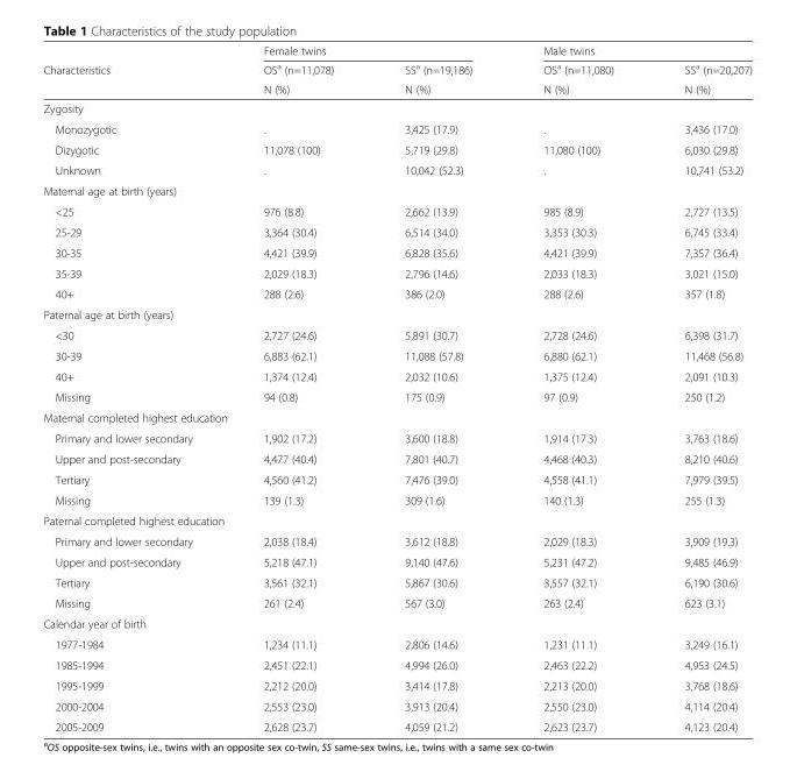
<table><thead><tr><td rowspan="3">Characteristics</td><td colspan="2">Female twins</td><td colspan="2">Male twins</td></tr><tr><td rowspan="2">OS<sup>a</sup> (n=11,078) N (%)</td><td rowspan="2">SS<sup>a</sup> (n=19,186) N (%)</td><td rowspan="2">OS<sup>a</sup> (n=11,080) N (%)</td><td rowspan="2">SS<sup>a</sup> (n=20,207) N (%)</td></tr><tr></tr></thead><tbody><tr><td colspan="5">Zygosity</td></tr><tr><td>Monozygotic</td><td>.</td><td>3,425 (17.9)</td><td>.</td><td>3,436 (17.0)</td></tr><tr><td>Dizygotic</td><td>11,078 (100)</td><td>5,719 (29.8)</td><td>11,080 (100)</td><td>6,030 (29.8)</td></tr><tr><td>Unknown</td><td>.</td><td>10,042 (52.3)</td><td>.</td><td>10,741 (53.2)</td></tr><tr><td colspan="5">Maternal age at birth (years)</td></tr><tr><td>&lt;25</td><td>976 (8.8)</td><td>2,662 (13.9)</td><td>985 (8.9)</td><td>2,727 (13.5)</td></tr><tr><td>25-29</td><td>3,364 (30.4)</td><td>6,514 (34.0)</td><td>3,353 (30.3)</td><td>6,745 (33.4)</td></tr><tr><td>30-35</td><td>4,421 (39.9)</td><td>6,828 (35.6)</td><td>4,421 (39.9)</td><td>7,357 (36.4)</td></tr><tr><td>35-39</td><td>2,029 (18.3)</td><td>2,796 (14.6)</td><td>2,033 (18.3)</td><td>3,021 (15.0)</td></tr><tr><td>40+</td><td>288 (2.6)</td><td>386 (2.0)</td><td>288 (2.6)</td><td>357 (1.8)</td></tr><tr><td colspan="5">Paternal age at birth (years)</td></tr><tr><td>&lt;30</td><td>2,727 (24.6)</td><td>5,891 (30.7)</td><td>2,728 (24.6)</td><td>6,398 (31.7)</td></tr><tr><td>30-39</td><td>6,883 (62.1)</td><td>11,088 (57.8)</td><td>6,880 (62.1)</td><td>11,468 (56.8)</td></tr><tr><td>40+</td><td>1,374 (12.4)</td><td>2,032 (10.6)</td><td>1,375 (12.4)</td><td>2,091 (10.3)</td></tr><tr><td>Missing</td><td>94 (0.8)</td><td>175 (0.9)</td><td>97 (0.9)</td><td>250 (1.2)</td></tr><tr><td colspan="5">Maternal completed highest education</td></tr><tr><td>Primary and lower secondary</td><td>1,902 (17.2)</td><td>3,600 (18.8)</td><td>1,914 (17.3)</td><td>3,763 (18.6)</td></tr><tr><td>Upper and post-secondary</td><td>4,477 (40.4)</td><td>7,801 (40.7)</td><td>4,468 (40.3)</td><td>8,210 (40.6)</td></tr><tr><td>Tertiary</td><td>4,560 (41.2)</td><td>7,476 (39.0)</td><td>4,558 (41.1)</td><td>7,979 (39.5)</td></tr><tr><td>Missing</td><td>139 (1.3)</td><td>309 (1.6)</td><td>140 (1.3)</td><td>255 (1.3)</td></tr><tr><td colspan="5">Paternal completed highest education</td></tr><tr><td>Primary and lower secondary</td><td>2,038 (18.4)</td><td>3,612 (18.8)</td><td>2,029 (18.3)</td><td>3,909 (19.3)</td></tr><tr><td>Upper and post-secondary</td><td>5,218 (47.1)</td><td>9,140 (47.6)</td><td>5,231 (47.2)</td><td>9,485 (46.9)</td></tr><tr><td>Tertiary</td><td>3,561 (32.1)</td><td>5,867 (30.6)</td><td>3,557 (32.1)</td><td>6,190 (30.6)</td></tr><tr><td>Missing</td><td>261 (2.4)</td><td>567 (3.0)</td><td>263 (2.4)</td><td>623 (3.1)</td></tr><tr><td colspan="5">Calendar year of birth</td></tr><tr><td>1977-1984</td><td>1,234 (11.1)</td><td>2,806 (14.6)</td><td>1,231 (11.1)</td><td>3,249 (16.1)</td></tr><tr><td>1985-1994</td><td>2,451 (22.1)</td><td>4,994 (26.0)</td><td>2,463 (22.2)</td><td>4,953 (24.5)</td></tr><tr><td>1995-1999</td><td>2,212 (20.0)</td><td>3,414 (17.8)</td><td>2,213 (20.0)</td><td>3,768 (18.6)</td></tr><tr><td>2000-2004</td><td>2,553 (23.0)</td><td>3,913 (20.4)</td><td>2,550 (23.0)</td><td>4,114 (20.4)</td></tr><tr><td>2005-2009</td><td>2,628 (23.7)</td><td>4,059 (21.2)</td><td>2,623 (23.7)</td><td>4,123 (20.4)</td></tr></tbody></table>